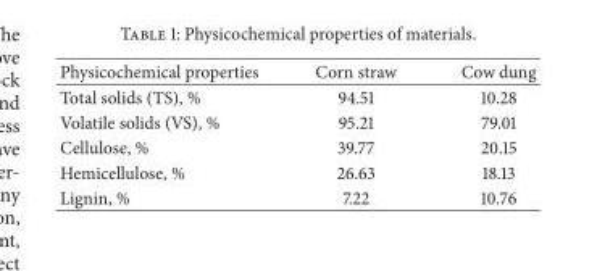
<table><thead><tr><td>Physicochemical properties</td><td>Corn straw</td><td>Cow dung</td></tr></thead><tbody><tr><td>Total solids (TS), %</td><td>94.51</td><td>10.28</td></tr><tr><td>Volatile solids (VS), %</td><td>95.21</td><td>79.01</td></tr><tr><td>Cellulose, %</td><td>39.77</td><td>20.15</td></tr><tr><td>Hemicellulose, %</td><td>26.63</td><td>18.13</td></tr><tr><td>Lignin, %</td><td>7.22</td><td>10.76</td></tr></tbody></table>